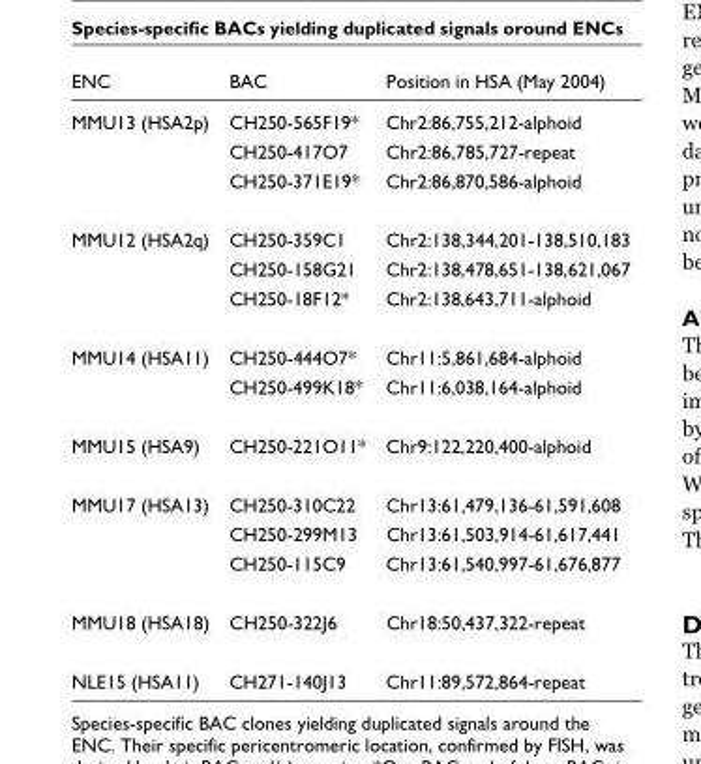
<table><thead><tr><td>ENC</td><td>BAC</td><td>Position in HSA (May 2004)</td></tr></thead><tbody><tr><td rowspan="3">MMU13 (HSA2p)</td><td>CH250-565F19*</td><td>Chr2:86,755,212-alphoid</td></tr><tr><td>CH250-417O7</td><td>Chr2:86,785,727-repeat</td></tr><tr><td>CH250-371E19*</td><td>Chr2:86,870,586-alphoid</td></tr><tr><td rowspan="3">MMU12 (HSA2q)</td><td>CH250-359C1</td><td>Chr2:138,344,201-138,510,183</td></tr><tr><td>CH250-158G21</td><td>Chr2:138,478,651-138,621,067</td></tr><tr><td>CH250-18F12*</td><td>Chr2:138,643,711-alphoid</td></tr><tr><td rowspan="2">MMU14 (HSA11)</td><td>CH250-444O7*</td><td>Chr11:5,861,684-alphoid</td></tr><tr><td>CH250-499K18*</td><td>Chr11:6,038,164-alphoid</td></tr><tr><td>MMU15 (HSA9)</td><td>CH250-221O11*</td><td>Chr9:122,220,400-alphoid</td></tr><tr><td rowspan="3">MMU17 (HSA13)</td><td>CH250-310C22</td><td>Chr13:61,479,136-61,591,608</td></tr><tr><td>CH250-299M13</td><td>Chr13:61,503,914-61,617,441</td></tr><tr><td>CH250-115C9</td><td>Chr13:61,540,997-61,676,877</td></tr><tr><td>MMU18 (HSA18)</td><td>CH250-322J6</td><td>Chr18:50,437,322-repeat</td></tr><tr><td>NLE15 (HSA11)</td><td>CH271-140J13</td><td>Chr11:89,572,864-repeat</td></tr></tbody></table>